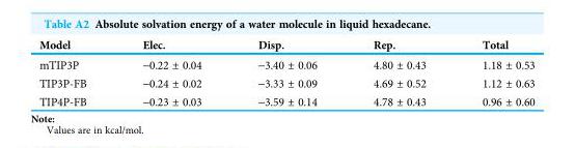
<table><thead><tr><td>Model</td><td>Elec.</td><td>Disp.</td><td>Rep.</td><td>Total</td></tr></thead><tbody><tr><td>mTIP3P</td><td>-0.22 ± 0.04</td><td>-3.40 ± 0.06</td><td>4.80 ± 0.43</td><td>1.18 ± 0.53</td></tr><tr><td>TIP3P-FB</td><td>-0.24 ± 0.02</td><td>-3.33 ± 0.09</td><td>4.69 ± 0.52</td><td>1.12 ± 0.63</td></tr><tr><td>TIP4P-FB</td><td>-0.23 ± 0.03</td><td>-3.59 ± 0.14</td><td>4.78 ± 0.43</td><td>0.96 ± 0.60</td></tr></tbody></table>